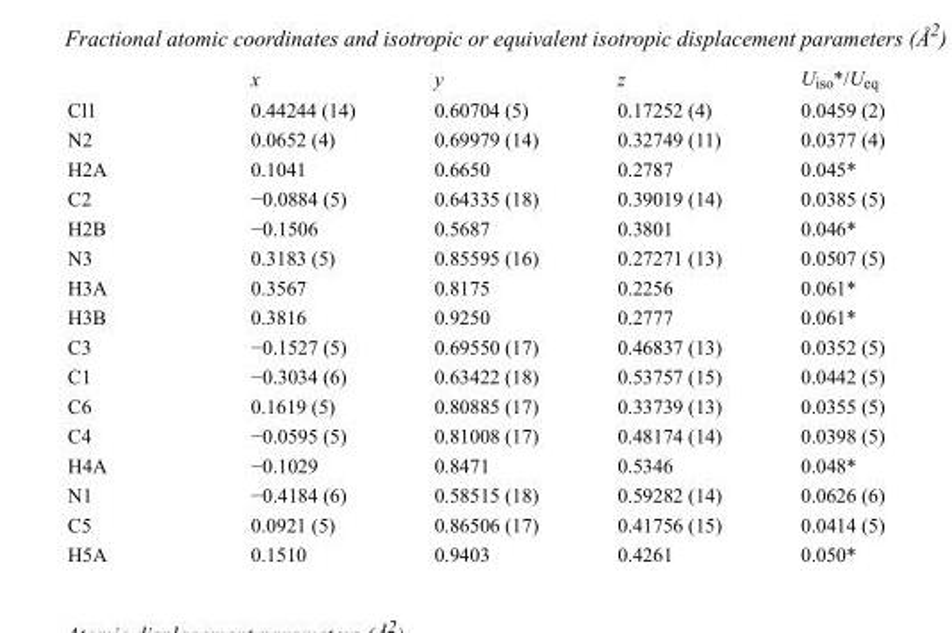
<table><thead><tr><td></td><td>x</td><td>y</td><td>z</td><td>U<sub>iso</sub>*/U<sub>eq</sub></td></tr></thead><tbody><tr><td>Cl1</td><td>0.44244 (14)</td><td>0.60704 (5)</td><td>0.17252 (4)</td><td>0.0459 (2)</td></tr><tr><td>N2</td><td>0.0652 (4)</td><td>0.69979 (14)</td><td>0.32749 (11)</td><td>0.0377 (4)</td></tr><tr><td>H2A</td><td>0.1041</td><td>0.6650</td><td>0.2787</td><td>0.045*</td></tr><tr><td>C2</td><td>−0.0884 (5)</td><td>0.64335 (18)</td><td>0.39019 (14)</td><td>0.0385 (5)</td></tr><tr><td>H2B</td><td>−0.1506</td><td>0.5687</td><td>0.3801</td><td>0.046*</td></tr><tr><td>N3</td><td>0.3183 (5)</td><td>0.85595 (16)</td><td>0.27271 (13)</td><td>0.0507 (5)</td></tr><tr><td>H3A</td><td>0.3567</td><td>0.8175</td><td>0.2256</td><td>0.061*</td></tr><tr><td>H3B</td><td>0.3816</td><td>0.9250</td><td>0.2777</td><td>0.061*</td></tr><tr><td>C3</td><td>−0.1527 (5)</td><td>0.69550 (17)</td><td>0.46837 (13)</td><td>0.0352 (5)</td></tr><tr><td>C1</td><td>−0.3034 (6)</td><td>0.63422 (18)</td><td>0.53757 (15)</td><td>0.0442 (5)</td></tr><tr><td>C6</td><td>0.1619 (5)</td><td>0.80885 (17)</td><td>0.33739 (13)</td><td>0.0355 (5)</td></tr><tr><td>C4</td><td>−0.0595 (5)</td><td>0.81008 (17)</td><td>0.48174 (14)</td><td>0.0398 (5)</td></tr><tr><td>H4A</td><td>−0.1029</td><td>0.8471</td><td>0.5346</td><td>0.048*</td></tr><tr><td>N1</td><td>−0.4184 (6)</td><td>0.58515 (18)</td><td>0.59282 (14)</td><td>0.0626 (6)</td></tr><tr><td>C5</td><td>0.0921 (5)</td><td>0.86506 (17)</td><td>0.41756 (15)</td><td>0.0414 (5)</td></tr><tr><td>H5A</td><td>0.1510</td><td>0.9403</td><td>0.4261</td><td>0.050*</td></tr></tbody></table>